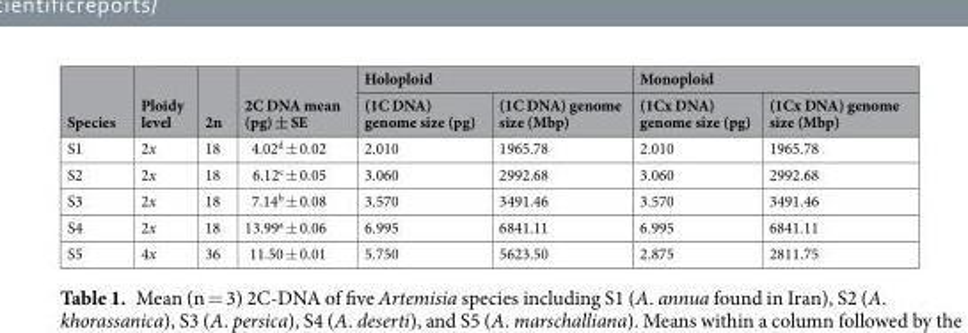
<table><thead><tr><td rowspan="2">Species</td><td rowspan="2">Ploidy level</td><td rowspan="2">2n</td><td rowspan="2">2C DNA mean (pg) ± SE</td><td colspan="2">Holoploid</td><td colspan="2">Monoploid</td></tr><tr><td>(1C DNA) genome size (pg)</td><td>(1C DNA) genome size (Mbp)</td><td>(1Cx DNA) genome size (pg)</td><td>(1Cx DNA) genome size (Mbp)</td></tr></thead><tbody><tr><td>S1</td><td>2x</td><td>18</td><td>4.02<sup>d</sup> ± 0.02</td><td>2.010</td><td>1965.78</td><td>2.010</td><td>1965.78</td></tr><tr><td>S2</td><td>2x</td><td>18</td><td>6.12<sup>c</sup> ± 0.05</td><td>3.060</td><td>2992.68</td><td>3.060</td><td>2992.68</td></tr><tr><td>S3</td><td>2x</td><td>18</td><td>7.14<sup>b</sup> ± 0.08</td><td>3.570</td><td>3491.46</td><td>3.570</td><td>3491.46</td></tr><tr><td>S4</td><td>2x</td><td>18</td><td>13.99<sup>a</sup> ± 0.06</td><td>6.995</td><td>6841.11</td><td>6.995</td><td>6841.11</td></tr><tr><td>S5</td><td>4x</td><td>36</td><td>11.50 ± 0.01</td><td>5.750</td><td>5623.50</td><td>2.875</td><td>2811.75</td></tr></tbody></table>